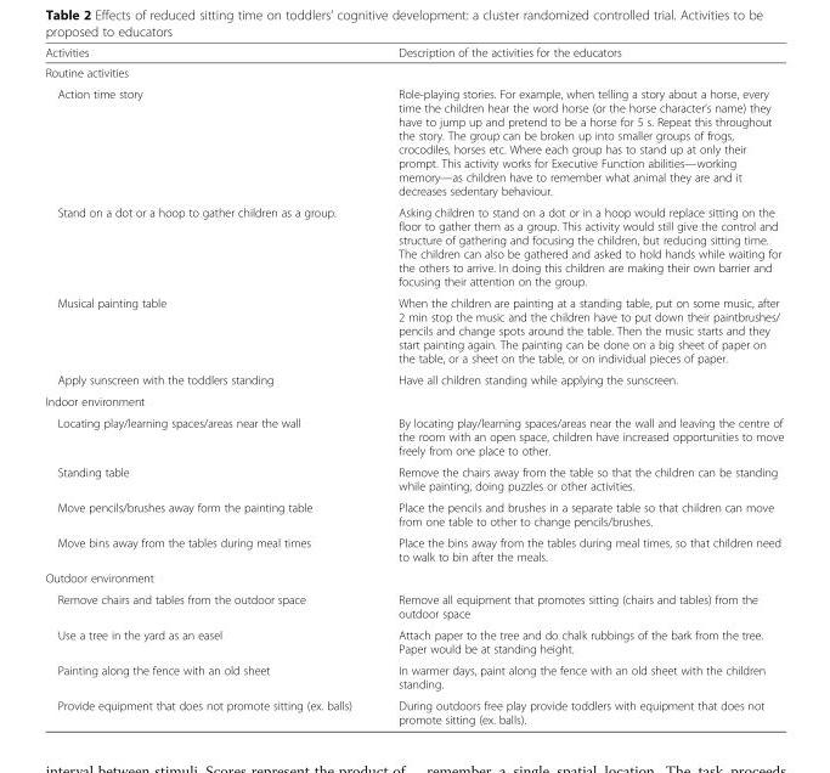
<table><thead><tr><td>Activities</td><td>Description of the activities for the educators</td></tr></thead><tbody><tr><td colspan="2">Routine activities</td></tr><tr><td>Action time story</td><td>Role-playing stories. For example, when telling a story about a horse, every time the children hear the word horse (or the horse character’s name) they have to jump up and pretend to be a horse for 5 s. Repeat this throughout the story. The group can be broken up into smaller groups of frogs, crocodiles, horses etc. Where each group has to stand up at only their prompt. This activity works for Executive Function abilities—working memory—as children have to remember what animal they are and it decreases sedentary behaviour.</td></tr><tr><td>Stand on a dot or a hoop to gather children as a group.</td><td>Asking children to stand on a dot or in a hoop would replace sitting on the floor to gather them as a group. This activity would still give the control and structure of gathering and focusing the children, but reducing sitting time. The children can also be gathered and asked to hold hands while waiting for the others to arrive. In doing this children are making their own barrier and focusing their attention on the group.</td></tr><tr><td>Musical painting table</td><td>When the children are painting at a standing table, put on some music, after 2 min stop the music and the children have to put down their paintbrushes/ pencils and change spots around the table. Then the music starts and they start painting again. The painting can be done on a big sheet of paper on the table, or a sheet on the table, or on individual pieces of paper.</td></tr><tr><td>Apply sunscreen with the toddlers standing</td><td>Have all children standing while applying the sunscreen.</td></tr><tr><td colspan="2">Indoor environment</td></tr><tr><td>Locating play/learning spaces/areas near the wall</td><td>By locating play/learning spaces/areas near the wall and leaving the centre of the room with an open space, children have increased opportunities to move freely from one place to other.</td></tr><tr><td>Standing table</td><td>Remove the chairs away from the table so that the children can be standing while painting, doing puzzles or other activities.</td></tr><tr><td>Move pencils/brushes away form the painting table</td><td>Place the pencils and brushes in a separate table so that children can move from one table to other to change pencils/brushes.</td></tr><tr><td>Move bins away from the tables during meal times</td><td>Place the bins away from the tables during meal times, so that children need to walk to bin after the meals.</td></tr><tr><td colspan="2">Outdoor environment</td></tr><tr><td>Remove chairs and tables from the outdoor space</td><td>Remove all equipment that promotes sitting (chairs and tables) from the outdoor space</td></tr><tr><td>Use a tree in the yard as an easel</td><td>Attach paper to the tree and do chalk rubbings of the bark from the tree. Paper would be at standing height.</td></tr><tr><td>Painting along the fence with an old sheet</td><td>In warmer days, paint along the fence with an old sheet with the children standing.</td></tr><tr><td>Provide equipment that does not promote sitting (ex. balls)</td><td>During outdoors free play provide toddlers with equipment that does not promote sitting (ex. balls).</td></tr></tbody></table>